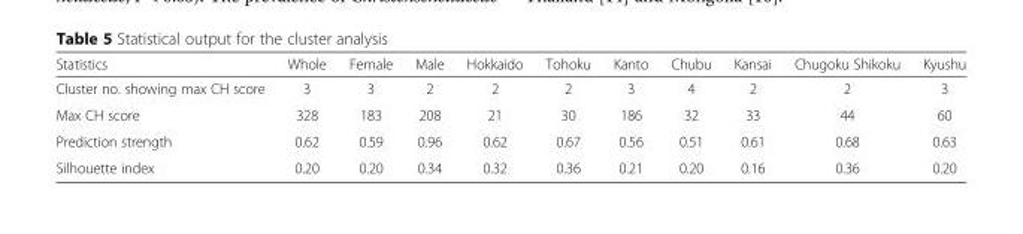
<table><thead><tr><td>Statistics</td><td>Whole</td><td>Female</td><td>Male</td><td>Hokkaido</td><td>Tohoku</td><td>Kanto</td><td>Chubu</td><td>Kansai</td><td>Chugoku Shikoku</td><td>Kyushu</td></tr></thead><tbody><tr><td>Cluster no. showing max CH score</td><td>3</td><td>3</td><td>2</td><td>2</td><td>2</td><td>3</td><td>4</td><td>2</td><td>2</td><td>3</td></tr><tr><td>Max CH score</td><td>328</td><td>183</td><td>208</td><td>21</td><td>30</td><td>186</td><td>32</td><td>33</td><td>44</td><td>60</td></tr><tr><td>Prediction strength</td><td>0.62</td><td>0.59</td><td>0.96</td><td>0.62</td><td>0.67</td><td>0.56</td><td>0.51</td><td>0.61</td><td>0.68</td><td>0.63</td></tr><tr><td>Silhouette index</td><td>0.20</td><td>0.20</td><td>0.34</td><td>0.32</td><td>0.36</td><td>0.21</td><td>0.20</td><td>0.16</td><td>0.36</td><td>0.20</td></tr></tbody></table>